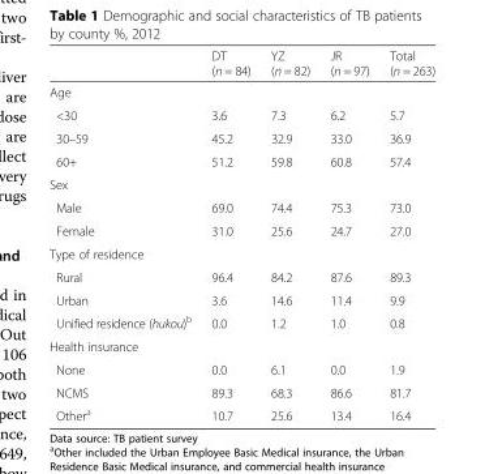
<table><thead><tr><td></td><td>DT (n = 84)</td><td>YZ (n = 82)</td><td>JR (n = 97)</td><td>Total (n = 263)</td></tr></thead><tbody><tr><td colspan="5">Age</td></tr><tr><td>&lt;30</td><td>3.6</td><td>7.3</td><td>6.2</td><td>5.7</td></tr><tr><td>30–59</td><td>45.2</td><td>32.9</td><td>33.0</td><td>36.9</td></tr><tr><td>60+</td><td>51.2</td><td>59.8</td><td>60.8</td><td>57.4</td></tr><tr><td colspan="5">Sex</td></tr><tr><td>Male</td><td>69.0</td><td>74.4</td><td>75.3</td><td>73.0</td></tr><tr><td>Female</td><td>31.0</td><td>25.6</td><td>24.7</td><td>27.0</td></tr><tr><td colspan="5">Type of residence</td></tr><tr><td>Rural</td><td>96.4</td><td>84.2</td><td>87.6</td><td>89.3</td></tr><tr><td>Urban</td><td>3.6</td><td>14.6</td><td>11.4</td><td>9.9</td></tr><tr><td>Unified residence (hukou)<sup>b</sup></td><td>0.0</td><td>1.2</td><td>1.0</td><td>0.8</td></tr><tr><td colspan="5">Health insurance</td></tr><tr><td>None</td><td>0.0</td><td>6.1</td><td>0.0</td><td>1.9</td></tr><tr><td>NCMS</td><td>89.3</td><td>68.3</td><td>86.6</td><td>81.7</td></tr><tr><td>Other<sup>a</sup></td><td>10.7</td><td>25.6</td><td>13.4</td><td>16.4</td></tr></tbody></table>